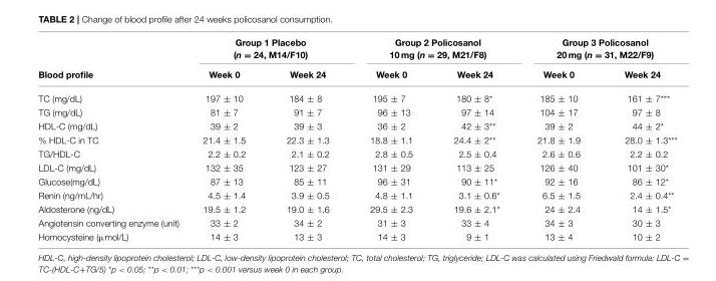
<table><thead><tr><td rowspan="2">Blood profile</td><td colspan="2">Group 1 Placebo (n = 24, M14/F10)</td><td colspan="2">Group 2 Policosanol 10 mg (n = 29, M21/F8)</td><td colspan="2">Group 3 Policosanol 20 mg (n = 31, M22/F9)</td></tr><tr><td>Week 0</td><td>Week 24</td><td>Week 0</td><td>Week 24</td><td>Week 0</td><td>Week 24</td></tr></thead><tbody><tr><td>TC (mg/dL)</td><td>197 ± 10</td><td>184 ± 8</td><td>195 ± 7</td><td>180 ± 8*</td><td>185 ± 10</td><td>161 ± 7***</td></tr><tr><td>TG (mg/dL)</td><td>81 ± 7</td><td>91 ± 7</td><td>96 ± 13</td><td>97 ± 14</td><td>104 ± 17</td><td>97 ± 8</td></tr><tr><td>HDL-C (mg/dL)</td><td>39 ± 2</td><td>39 ± 3</td><td>36 ± 2</td><td>42 ± 3**</td><td>39 ± 2</td><td>44 ± 2*</td></tr><tr><td>% HDL-C in TC</td><td>21.4 ± 1.5</td><td>22.3 ± 1.3</td><td>18.8 ± 1.1</td><td>24.4 ± 2**</td><td>21.8 ± 1.9</td><td>28.0 ± 1.3***</td></tr><tr><td>TG/HDL-C</td><td>2.2 ± 0.2</td><td>2.1 ± 0.2</td><td>2.8 ± 0.5</td><td>2.5 ± 0.4</td><td>2.6 ± 0.6</td><td>2.2 ± 0.2</td></tr><tr><td>LDL-C (mg/dL)</td><td>132 ± 35</td><td>123 ± 27</td><td>131 ± 29</td><td>113 ± 25</td><td>126 ± 40</td><td>101 ± 30*</td></tr><tr><td>Glucose(mg/dL)</td><td>87 ± 13</td><td>85 ± 11</td><td>96 ± 31</td><td>90 ± 11*</td><td>92 ± 16</td><td>86 ± 12*</td></tr><tr><td>Renin (ng/mL/hr)</td><td>4.5 ± 1.4</td><td>3.9 ± 0.5</td><td>4.8 ± 1.1</td><td>3.1 ± 0.6*</td><td>6.5 ± 1.5</td><td>2.4 ± 0.4**</td></tr><tr><td>Aldosterone (ng/dL)</td><td>19.5 ± 1.2</td><td>19.0 ± 1.6</td><td>29.5 ± 2.3</td><td>19.6 ± 2.1*</td><td>24 ± 2.4</td><td>14 ± 1.5*</td></tr><tr><td>Angiotensin converting enzyme (unit)</td><td>33 ± 2</td><td>34 ± 2</td><td>31 ± 3</td><td>33 ± 4</td><td>34 ± 3</td><td>30 ± 3</td></tr><tr><td>Homocysteine (µmol/L)</td><td>14 ± 3</td><td>13 ± 3</td><td>14 ± 3</td><td>9 ± 1</td><td>13 ± 4</td><td>10 ± 2</td></tr></tbody></table>